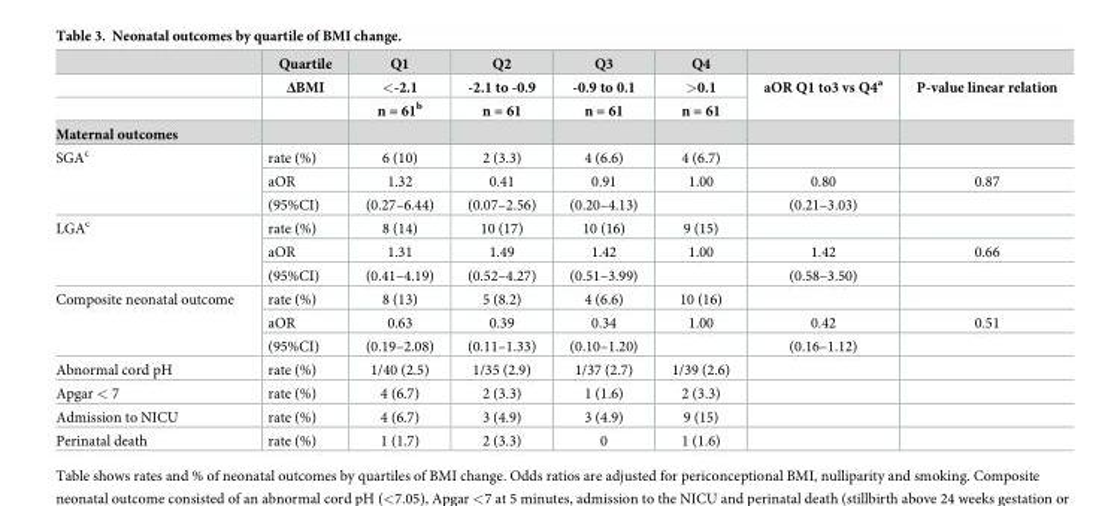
<table><thead><tr><td rowspan="3"></td><td rowspan="3">Quartile ΔBMI</td><td rowspan="3">Q1 &lt;-2.1 n = 61<sup>b</sup></td><td rowspan="3">Q2 -2.1 to -0.9 n = 61</td><td rowspan="3">Q3 -0.9 to 0.1 n = 61</td><td rowspan="3">Q4 &gt;0.1 n = 61</td><td rowspan="3">aOR Q1 to3 vs Q4<sup>a</sup></td><td rowspan="3">P-value linear relation</td></tr><tr></tr><tr></tr></thead><tbody><tr><td colspan="8">Maternal outcomes</td></tr><tr><td rowspan="3">SGA<sup>c</sup></td><td>rate (%)</td><td>6 (10)</td><td>2 (3.3)</td><td>4 (6.6)</td><td>4 (6.7)</td><td></td><td></td></tr><tr><td>aOR</td><td>1.32</td><td>0.41</td><td>0.91</td><td>1.00</td><td>0.80</td><td>0.87</td></tr><tr><td>(95%CI)</td><td>(0.27–6.44)</td><td>(0.07–2.56)</td><td>(0.20–4.13)</td><td></td><td>(0.21–3.03)</td><td></td></tr><tr><td rowspan="3">LGA<sup>c</sup></td><td>rate (%)</td><td>8 (14)</td><td>10 (17)</td><td>10 (16)</td><td>9 (15)</td><td></td><td></td></tr><tr><td>aOR</td><td>1.31</td><td>1.49</td><td>1.42</td><td>1.00</td><td>1.42</td><td>0.66</td></tr><tr><td>(95%CI)</td><td>(0.41–4.19)</td><td>(0.52–4.27)</td><td>(0.51–3.99)</td><td></td><td>(0.58–3.50)</td><td></td></tr><tr><td rowspan="3">Composite neonatal outcome</td><td>rate (%)</td><td>8 (13)</td><td>5 (8.2)</td><td>4 (6.6)</td><td>10 (16)</td><td></td><td></td></tr><tr><td>aOR</td><td>0.63</td><td>0.39</td><td>0.34</td><td>1.00</td><td>0.42</td><td>0.51</td></tr><tr><td>(95%CI)</td><td>(0.19–2.08)</td><td>(0.11–1.33)</td><td>(0.10–1.20)</td><td></td><td>(0.16–1.12)</td><td></td></tr><tr><td>Abnormal cord pH</td><td>rate (%)</td><td>1/40 (2.5)</td><td>1/35 (2.9)</td><td>1/37 (2.7)</td><td>1/39 (2.6)</td><td></td><td></td></tr><tr><td>Apgar &lt; 7</td><td>rate (%)</td><td>4 (6.7)</td><td>2 (3.3)</td><td>1 (1.6)</td><td>2 (3.3)</td><td></td><td></td></tr><tr><td>Admission to NICU</td><td>rate (%)</td><td>4 (6.7)</td><td>3 (4.9)</td><td>3 (4.9)</td><td>9 (15)</td><td></td><td></td></tr><tr><td>Perinatal death</td><td>rate (%)</td><td>1 (1.7)</td><td>2 (3.3)</td><td>0</td><td>1 (1.6)</td><td></td><td></td></tr></tbody></table>